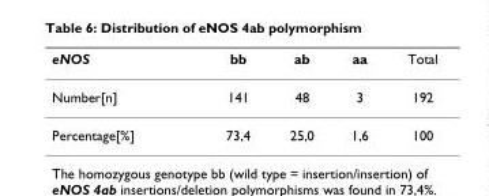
<table><thead><tr><td>eNOS</td><td>bb</td><td>ab</td><td>aa</td><td>Total</td></tr></thead><tbody><tr><td>Number[n]</td><td>141</td><td>48</td><td>3</td><td>192</td></tr><tr><td>Percentage[%]</td><td>73,4</td><td>25,0</td><td>1,6</td><td>100</td></tr></tbody></table>